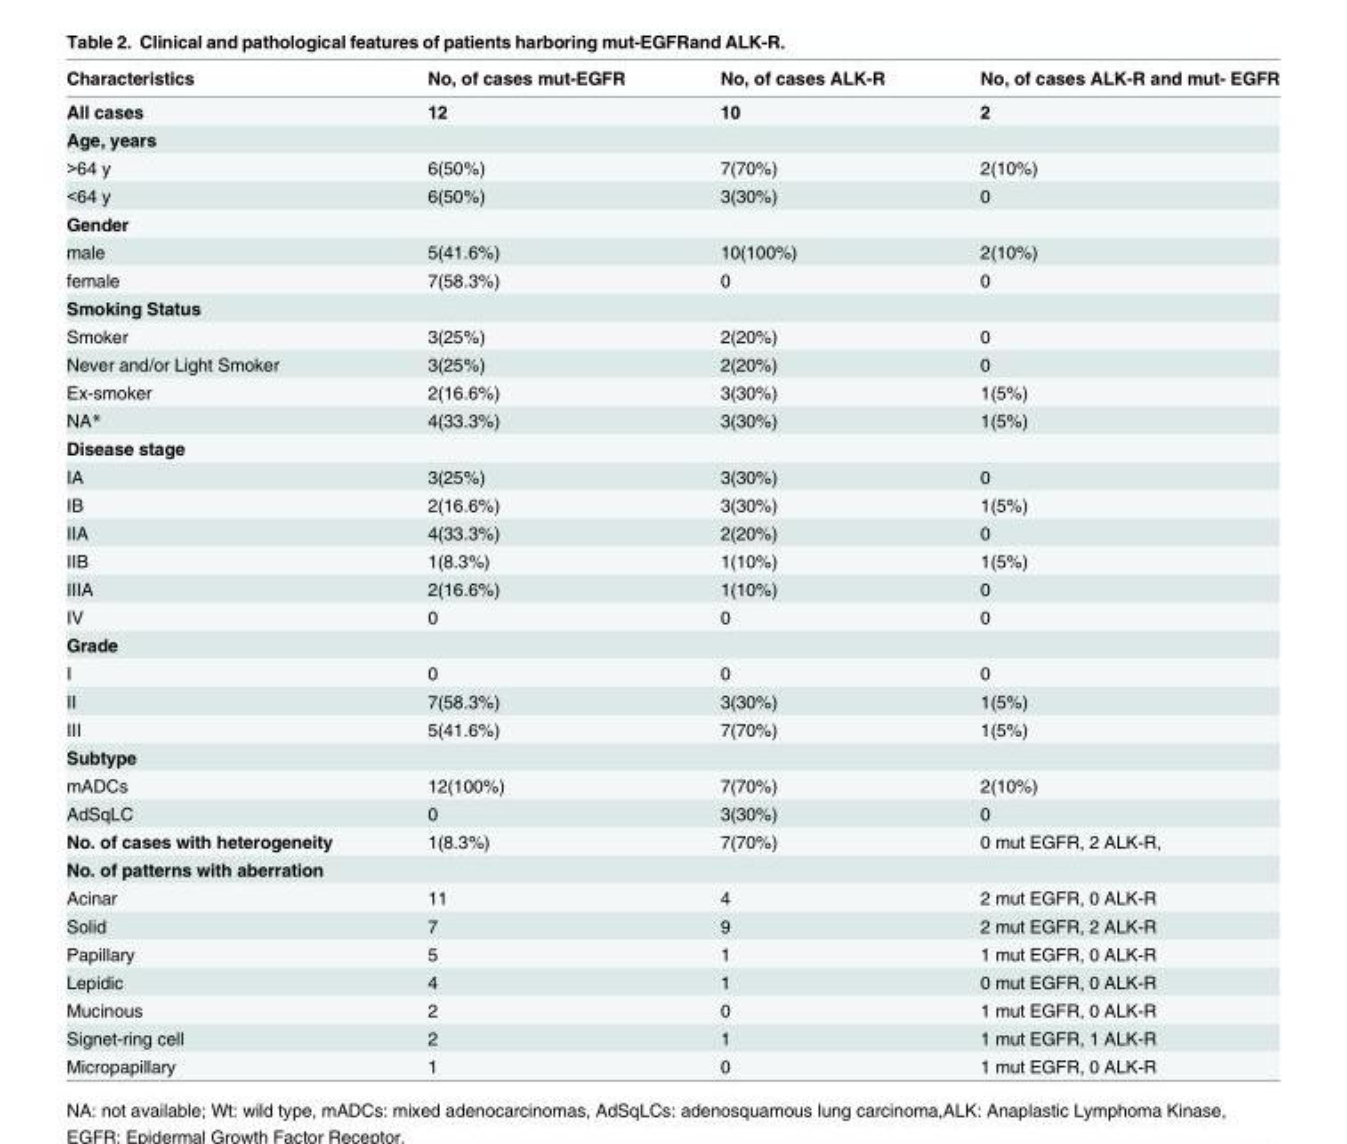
<table><thead><tr><td>Characteristics</td><td>No, of cases mut-EGFR</td><td>No, of cases ALK-R</td><td>No, of cases ALK-R and mut- EGFR</td></tr></thead><tbody><tr><td>All cases</td><td>12</td><td>10</td><td>2</td></tr><tr><td colspan="4">Age, years</td></tr><tr><td>&gt;64 y</td><td>6(50%)</td><td>7(70%)</td><td>2(10%)</td></tr><tr><td>&lt;64 y</td><td>6(50%)</td><td>3(30%)</td><td>0</td></tr><tr><td colspan="4">Gender</td></tr><tr><td>male</td><td>5(41.6%)</td><td>10(100%)</td><td>2(10%)</td></tr><tr><td>female</td><td>7(58.3%)</td><td>0</td><td>0</td></tr><tr><td colspan="4">Smoking Status</td></tr><tr><td>Smoker</td><td>3(25%)</td><td>2(20%)</td><td>0</td></tr><tr><td>Never and/or Light Smoker</td><td>3(25%)</td><td>2(20%)</td><td>0</td></tr><tr><td>Ex-smoker</td><td>2(16.6%)</td><td>3(30%)</td><td>1(5%)</td></tr><tr><td>NA*</td><td>4(33.3%)</td><td>3(30%)</td><td>1(5%)</td></tr><tr><td colspan="4">Disease stage</td></tr><tr><td>IA</td><td>3(25%)</td><td>3(30%)</td><td>0</td></tr><tr><td>IB</td><td>2(16.6%)</td><td>3(30%)</td><td>1(5%)</td></tr><tr><td>IIA</td><td>4(33.3%)</td><td>2(20%)</td><td>0</td></tr><tr><td>IIB</td><td>1(8.3%)</td><td>1(10%)</td><td>1(5%)</td></tr><tr><td>IIIA</td><td>2(16.6%)</td><td>1(10%)</td><td>0</td></tr><tr><td>IV</td><td>0</td><td>0</td><td>0</td></tr><tr><td colspan="4">Grade</td></tr><tr><td>I</td><td>0</td><td>0</td><td>0</td></tr><tr><td>II</td><td>7(58.3%)</td><td>3(30%)</td><td>1(5%)</td></tr><tr><td>III</td><td>5(41.6%)</td><td>7(70%)</td><td>1(5%)</td></tr><tr><td colspan="4">Subtype</td></tr><tr><td>mADCs</td><td>12(100%)</td><td>7(70%)</td><td>2(10%)</td></tr><tr><td>AdSqLC</td><td>0</td><td>3(30%)</td><td>0</td></tr><tr><td>No. of cases with heterogeneity</td><td>1(8.3%)</td><td>7(70%)</td><td>0 mut EGFR, 2 ALK-R,</td></tr><tr><td colspan="4">No. of patterns with aberration</td></tr><tr><td>Acinar</td><td>11</td><td>4</td><td>2 mut EGFR, 0 ALK-R</td></tr><tr><td>Solid</td><td>7</td><td>9</td><td>2 mut EGFR, 2 ALK-R</td></tr><tr><td>Papillary</td><td>5</td><td>1</td><td>1 mut EGFR, 0 ALK-R</td></tr><tr><td>Lepidic</td><td>4</td><td>1</td><td>0 mut EGFR, 0 ALK-R</td></tr><tr><td>Mucinous</td><td>2</td><td>0</td><td>1 mut EGFR, 0 ALK-R</td></tr><tr><td>Signet-ring cell</td><td>2</td><td>1</td><td>1 mut EGFR, 1 ALK-R</td></tr><tr><td>Micropapillary</td><td>1</td><td>0</td><td>1 mut EGFR, 0 ALK-R</td></tr></tbody></table>